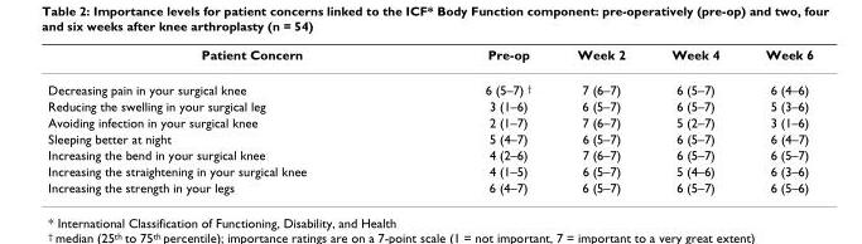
<table><thead><tr><td>Patient Concern</td><td>Pre-op</td><td>Week 2</td><td>Week 4</td><td>Week 6</td></tr></thead><tbody><tr><td>Decreasing pain in your surgical knee</td><td>6 (5–7) <sup>†</sup></td><td>7 (6–7)</td><td>6 (5–7)</td><td>6 (4–6)</td></tr><tr><td>Reducing the swelling in your surgical leg</td><td>3 (1–6)</td><td>6 (5–7)</td><td>6 (5–7)</td><td>5 (3–6)</td></tr><tr><td>Avoiding infection in your surgical knee</td><td>2 (1–7)</td><td>7 (6–7)</td><td>5 (2–7)</td><td>3 (1–6)</td></tr><tr><td>Sleeping better at night</td><td>5 (4–7)</td><td>6 (5–7)</td><td>6 (5–7)</td><td>6 (4–7)</td></tr><tr><td>Increasing the bend in your surgical knee</td><td>4 (2–6)</td><td>7 (6–7)</td><td>6 (5–7)</td><td>6 (5–7)</td></tr><tr><td>Increasing the straightening in your surgical knee</td><td>4 (1–5)</td><td>6 (5–7)</td><td>5 (4–6)</td><td>6 (3–6)</td></tr><tr><td>Increasing the strength in your legs</td><td>6 (4–7)</td><td>6 (5–7)</td><td>6 (5–7)</td><td>6 (5–6)</td></tr></tbody></table>